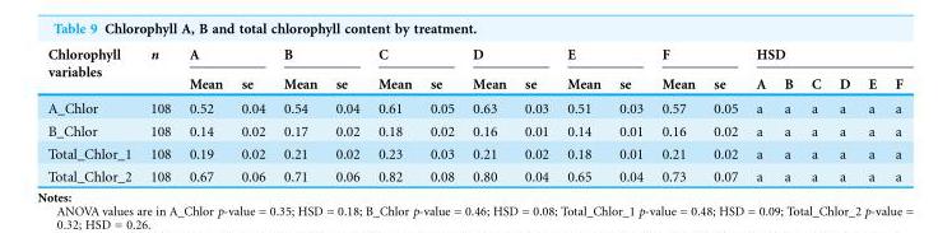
<table><thead><tr><td rowspan="2">Chlorophyll variables</td><td rowspan="2">n</td><td colspan="2">A</td><td colspan="2">B</td><td colspan="2">C</td><td colspan="2">D</td><td colspan="2">E</td><td colspan="2">F</td><td colspan="6">HSD</td></tr><tr><td>Mean</td><td>se</td><td>Mean</td><td>se</td><td>Mean</td><td>se</td><td>Mean</td><td>se</td><td>Mean</td><td>se</td><td>Mean</td><td>se</td><td>A</td><td>B</td><td>C</td><td>D</td><td>E</td><td>F</td></tr></thead><tbody><tr><td>A_Chlor</td><td>108</td><td>0.52</td><td>0.04</td><td>0.54</td><td>0.04</td><td>0.61</td><td>0.05</td><td>0.63</td><td>0.03</td><td>0.51</td><td>0.03</td><td>0.57</td><td>0.05</td><td>a</td><td>a</td><td>a</td><td>a</td><td>a</td><td>a</td></tr><tr><td>B_Chlor</td><td>108</td><td>0.14</td><td>0.02</td><td>0.17</td><td>0.02</td><td>0.18</td><td>0.02</td><td>0.16</td><td>0.01</td><td>0.14</td><td>0.01</td><td>0.16</td><td>0.02</td><td>a</td><td>a</td><td>a</td><td>a</td><td>a</td><td>a</td></tr><tr><td>Total_Chlor_1</td><td>108</td><td>0.19</td><td>0.02</td><td>0.21</td><td>0.02</td><td>0.23</td><td>0.03</td><td>0.21</td><td>0.02</td><td>0.18</td><td>0.01</td><td>0.21</td><td>0.02</td><td>a</td><td>a</td><td>a</td><td>a</td><td>a</td><td>a</td></tr><tr><td>Total_Chlor_2</td><td>108</td><td>0.67</td><td>0.06</td><td>0.71</td><td>0.06</td><td>0.82</td><td>0.08</td><td>0.80</td><td>0.04</td><td>0.65</td><td>0.04</td><td>0.73</td><td>0.07</td><td>a</td><td>a</td><td>a</td><td>a</td><td>a</td><td>a</td></tr></tbody></table>